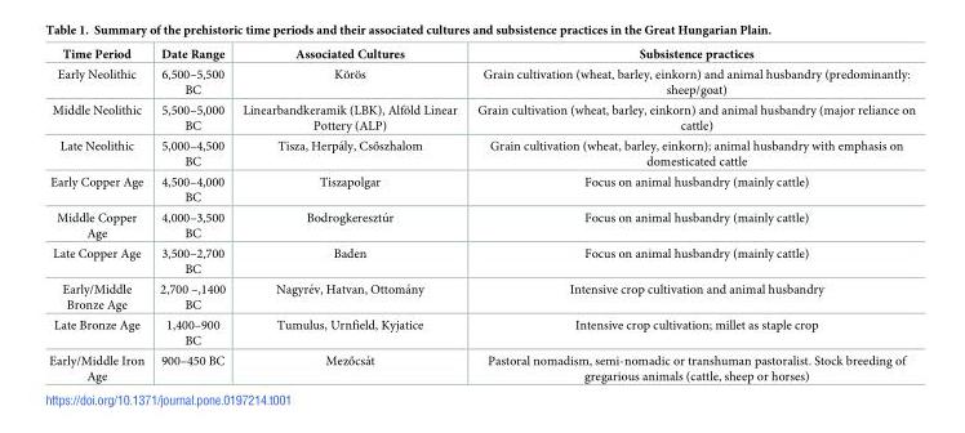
<table><thead><tr><td>Time Period</td><td>Date Range</td><td>Associated Cultures</td><td>Subsistence practices</td></tr></thead><tbody><tr><td>Early Neolithic</td><td>6,500–5,500 BC</td><td>Ko¨ro¨s</td><td>Grain cultivation (wheat, barley, einkorn) and animal husbandry (predominantly: sheep/goat)</td></tr><tr><td>Middle Neolithic</td><td>5,500–5,000 BC</td><td>Linearbandkeramik (LBK), Alfo¨ld Linear Pottery (ALP)</td><td>Grain cultivation (wheat, barley, einkorn) and animal husbandry (major reliance on cattle)</td></tr><tr><td>Late Neolithic</td><td>5,000–4,500 BC</td><td>Tisza, Herpa´ly, Csőszhalom</td><td>Grain cultivation (wheat, barley, einkorn); animal husbandry with emphasis on domesticated cattle</td></tr><tr><td>Early Copper Age</td><td>4,500–4,000 BC</td><td>Tiszapolgar</td><td>Focus on animal husbandry (mainly cattle)</td></tr><tr><td>Middle Copper Age</td><td>4,000–3,500 BC</td><td>Bodrogkeresztu´r</td><td>Focus on animal husbandry (mainly cattle)</td></tr><tr><td>Late Copper Age</td><td>3,500–2,700 BC</td><td>Baden</td><td>Focus on animal husbandry (mainly cattle)</td></tr><tr><td>Early/Middle Bronze Age</td><td>2,700 –,1400 BC</td><td>Nagyre´v, Hatvan, Ottoma´ny</td><td>Intensive crop cultivation and animal husbandry</td></tr><tr><td>Late Bronze Age</td><td>1,400–900 BC</td><td>Tumulus, Urnfield, Kyjatice</td><td>Intensive crop cultivation; millet as staple crop</td></tr><tr><td>Early/Middle Iron Age</td><td>900–450 BC</td><td>Mezőcsa´t</td><td>Pastoral nomadism, semi-nomadic or transhuman pastoralist. Stock breeding of gregarious animals (cattle, sheep or horses)</td></tr></tbody></table>